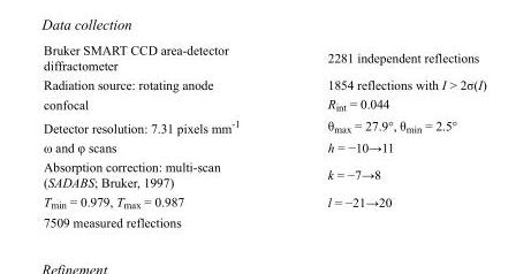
<table><tbody><tr><td>Bruker SMART CCD area-detector diffractometer</td><td>2281 independent reflections</td></tr><tr><td>Radiation source: rotating anode</td><td>1854 reflections with I &gt; 2σ(I)</td></tr><tr><td>confocal</td><td>R<sub>int</sub> = 0.044</td></tr><tr><td>Detector resolution: 7.31 pixels mm<sup>-1</sup></td><td>θ<sub>max</sub> = 27.9°, θ<sub>min</sub> = 2.5°</td></tr><tr><td>ω and φ scans</td><td>h = −10→11</td></tr><tr><td>Absorption correction: multi-scan (SADABS; Bruker, 1997)</td><td>k = −7→8</td></tr><tr><td>T<sub>min</sub> = 0.979, T<sub>max</sub> = 0.987</td><td>l = −21→20</td></tr><tr><td>7509 measured reflections</td><td></td></tr></tbody></table>